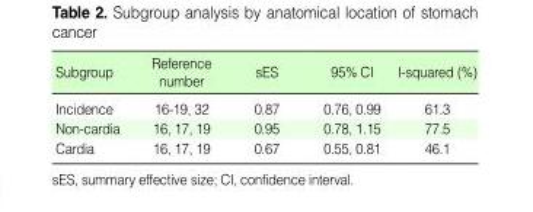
<table><thead><tr><td>Subgroup</td><td>Reference number</td><td>sES</td><td>95% CI</td><td>I-squared (%)</td></tr></thead><tbody><tr><td>Incidence</td><td>16-19, 32</td><td>0.87</td><td>0.76, 0.99</td><td>61.3</td></tr><tr><td>Non-cardia</td><td>16, 17, 19</td><td>0.95</td><td>0.78, 1.15</td><td>77.5</td></tr><tr><td>Cardia</td><td>16, 17, 19</td><td>0.67</td><td>0.55, 0.81</td><td>46.1</td></tr></tbody></table>